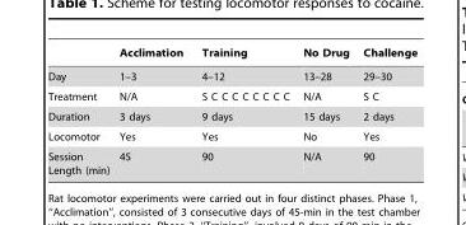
<table><thead><tr><td></td><td>Acclimation</td><td>Training</td><td>No Drug</td><td>Challenge</td></tr></thead><tbody><tr><td>Day</td><td>1–3</td><td>4–12</td><td>13–28</td><td>29–30</td></tr><tr><td>Treatment</td><td>N/A</td><td>S C C C C C C C C</td><td>N/A</td><td>S C</td></tr><tr><td>Duration</td><td>3 days</td><td>9 days</td><td>15 days</td><td>2 days</td></tr><tr><td>Locomotor</td><td>Yes</td><td>Yes</td><td>No</td><td>Yes</td></tr><tr><td>Session Length (min)</td><td>45</td><td>90</td><td>N/A</td><td>90</td></tr></tbody></table>